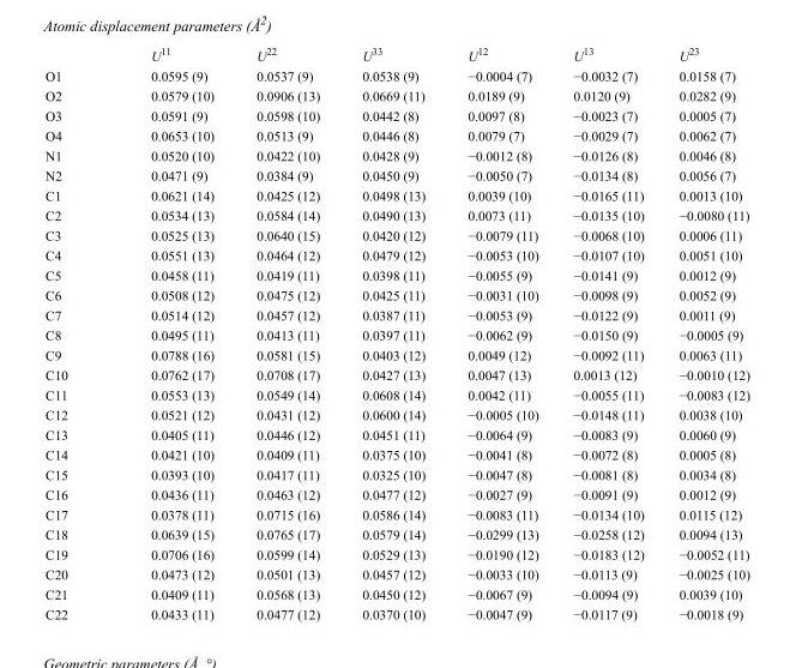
<table><thead><tr><td></td><td>U<sup>11</sup></td><td>U<sup>22</sup></td><td>U<sup>33</sup></td><td>U<sup>12</sup></td><td>U<sup>13</sup></td><td>U<sup>23</sup></td></tr></thead><tbody><tr><td>O1</td><td>0.0595 (9)</td><td>0.0537 (9)</td><td>0.0538 (9)</td><td>−0.0004 (7)</td><td>−0.0032 (7)</td><td>0.0158 (7)</td></tr><tr><td>O2</td><td>0.0579 (10)</td><td>0.0906 (13)</td><td>0.0669 (11)</td><td>0.0189 (9)</td><td>0.0120 (9)</td><td>0.0282 (9)</td></tr><tr><td>O3</td><td>0.0591 (9)</td><td>0.0598 (10)</td><td>0.0442 (8)</td><td>0.0097 (8)</td><td>−0.0023 (7)</td><td>0.0005 (7)</td></tr><tr><td>O4</td><td>0.0653 (10)</td><td>0.0513 (9)</td><td>0.0446 (8)</td><td>0.0079 (7)</td><td>−0.0029 (7)</td><td>0.0062 (7)</td></tr><tr><td>N1</td><td>0.0520 (10)</td><td>0.0422 (10)</td><td>0.0428 (9)</td><td>−0.0012 (8)</td><td>−0.0126 (8)</td><td>0.0046 (8)</td></tr><tr><td>N2</td><td>0.0471 (9)</td><td>0.0384 (9)</td><td>0.0450 (9)</td><td>−0.0050 (7)</td><td>−0.0134 (8)</td><td>0.0056 (7)</td></tr><tr><td>C1</td><td>0.0621 (14)</td><td>0.0425 (12)</td><td>0.0498 (13)</td><td>0.0039 (10)</td><td>−0.0165 (11)</td><td>0.0013 (10)</td></tr><tr><td>C2</td><td>0.0534 (13)</td><td>0.0584 (14)</td><td>0.0490 (13)</td><td>0.0073 (11)</td><td>−0.0135 (10)</td><td>−0.0080 (11)</td></tr><tr><td>C3</td><td>0.0525 (13)</td><td>0.0640 (15)</td><td>0.0420 (12)</td><td>−0.0079 (11)</td><td>−0.0068 (10)</td><td>0.0006 (11)</td></tr><tr><td>C4</td><td>0.0551 (13)</td><td>0.0464 (12)</td><td>0.0479 (12)</td><td>−0.0053 (10)</td><td>−0.0107 (10)</td><td>0.0051 (10)</td></tr><tr><td>C5</td><td>0.0458 (11)</td><td>0.0419 (11)</td><td>0.0398 (11)</td><td>−0.0055 (9)</td><td>−0.0141 (9)</td><td>0.0012 (9)</td></tr><tr><td>C6</td><td>0.0508 (12)</td><td>0.0475 (12)</td><td>0.0425 (11)</td><td>−0.0031 (10)</td><td>−0.0098 (9)</td><td>0.0052 (9)</td></tr><tr><td>C7</td><td>0.0514 (12)</td><td>0.0457 (12)</td><td>0.0387 (11)</td><td>−0.0053 (9)</td><td>−0.0122 (9)</td><td>0.0011 (9)</td></tr><tr><td>C8</td><td>0.0495 (11)</td><td>0.0413 (11)</td><td>0.0397 (11)</td><td>−0.0062 (9)</td><td>−0.0150 (9)</td><td>−0.0005 (9)</td></tr><tr><td>C9</td><td>0.0788 (16)</td><td>0.0581 (15)</td><td>0.0403 (12)</td><td>0.0049 (12)</td><td>−0.0092 (11)</td><td>0.0063 (11)</td></tr><tr><td>C10</td><td>0.0762 (17)</td><td>0.0708 (17)</td><td>0.0427 (13)</td><td>0.0047 (13)</td><td>0.0013 (12)</td><td>−0.0010 (12)</td></tr><tr><td>C11</td><td>0.0553 (13)</td><td>0.0549 (14)</td><td>0.0608 (14)</td><td>0.0042 (11)</td><td>−0.0055 (11)</td><td>−0.0083 (12)</td></tr><tr><td>C12</td><td>0.0521 (12)</td><td>0.0431 (12)</td><td>0.0600 (14)</td><td>−0.0005 (10)</td><td>−0.0148 (11)</td><td>0.0038 (10)</td></tr><tr><td>C13</td><td>0.0405 (11)</td><td>0.0446 (12)</td><td>0.0451 (11)</td><td>−0.0064 (9)</td><td>−0.0083 (9)</td><td>0.0060 (9)</td></tr><tr><td>C14</td><td>0.0421 (10)</td><td>0.0409 (11)</td><td>0.0375 (10)</td><td>−0.0041 (8)</td><td>−0.0072 (8)</td><td>0.0005 (8)</td></tr><tr><td>C15</td><td>0.0393 (10)</td><td>0.0417 (11)</td><td>0.0325 (10)</td><td>−0.0047 (8)</td><td>−0.0081 (8)</td><td>0.0034 (8)</td></tr><tr><td>C16</td><td>0.0436 (11)</td><td>0.0463 (12)</td><td>0.0477 (12)</td><td>−0.0027 (9)</td><td>−0.0091 (9)</td><td>0.0012 (9)</td></tr><tr><td>C17</td><td>0.0378 (11)</td><td>0.0715 (16)</td><td>0.0586 (14)</td><td>−0.0083 (11)</td><td>−0.0134 (10)</td><td>0.0115 (12)</td></tr><tr><td>C18</td><td>0.0639 (15)</td><td>0.0765 (17)</td><td>0.0579 (14)</td><td>−0.0299 (13)</td><td>−0.0258 (12)</td><td>0.0094 (13)</td></tr><tr><td>C19</td><td>0.0706 (16)</td><td>0.0599 (14)</td><td>0.0529 (13)</td><td>−0.0190 (12)</td><td>−0.0183 (12)</td><td>−0.0052 (11)</td></tr><tr><td>C20</td><td>0.0473 (12)</td><td>0.0501 (13)</td><td>0.0457 (12)</td><td>−0.0033 (10)</td><td>−0.0113 (9)</td><td>−0.0025 (10)</td></tr><tr><td>C21</td><td>0.0409 (11)</td><td>0.0568 (13)</td><td>0.0450 (12)</td><td>−0.0067 (9)</td><td>−0.0094 (9)</td><td>0.0039 (10)</td></tr><tr><td>C22</td><td>0.0433 (11)</td><td>0.0477 (12)</td><td>0.0370 (10)</td><td>−0.0047 (9)</td><td>−0.0117 (9)</td><td>−0.0018 (9)</td></tr></tbody></table>